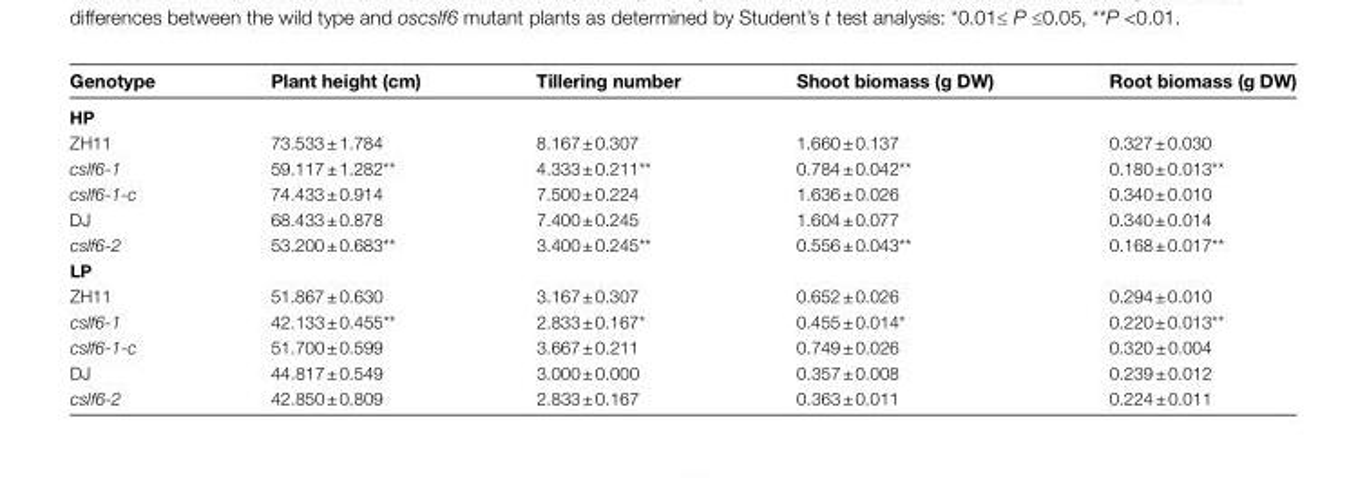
<table><thead><tr><td>Genotype</td><td>Plant height (cm)</td><td>Tillering number</td><td>Shoot biomass (g DW)</td><td>Root biomass (g DW)</td></tr></thead><tbody><tr><td colspan="5">HP</td></tr><tr><td>ZH11</td><td>73.533 ± 1.784</td><td>8.167 ± 0.307</td><td>1.660 ± 0.137</td><td>0.327 ± 0.030</td></tr><tr><td>cslf6-1</td><td>59.117 ± 1.282**</td><td>4.333 ± 0.211**</td><td>0.784 ± 0.042**</td><td>0.180 ± 0.013**</td></tr><tr><td>cslf6-1-c</td><td>74.433 ± 0.914</td><td>7.500 ± 0.224</td><td>1.636 ± 0.026</td><td>0.340 ± 0.010</td></tr><tr><td>DJ</td><td>68.433 ± 0.878</td><td>7.400 ± 0.245</td><td>1.604 ± 0.077</td><td>0.340 ± 0.014</td></tr><tr><td>cslf6-2</td><td>53.200 ± 0.683**</td><td>3.400 ± 0.245**</td><td>0.556 ± 0.043**</td><td>0.168 ± 0.017**</td></tr><tr><td colspan="5">LP</td></tr><tr><td>ZH11</td><td>51.867 ± 0.630</td><td>3.167 ± 0.307</td><td>0.652 ± 0.026</td><td>0.294 ± 0.010</td></tr><tr><td>cslf6-1</td><td>42.133 ± 0.455**</td><td>2.833 ± 0.167*</td><td>0.455 ± 0.014*</td><td>0.220 ± 0.013**</td></tr><tr><td>cslf6-1-c</td><td>51.700 ± 0.599</td><td>3.667 ± 0.211</td><td>0.749 ± 0.026</td><td>0.320 ± 0.004</td></tr><tr><td>DJ</td><td>44.817 ± 0.549</td><td>3.000 ± 0.000</td><td>0.357 ± 0.008</td><td>0.239 ± 0.012</td></tr><tr><td>cslf6-2</td><td>42.850 ± 0.809</td><td>2.833 ± 0.167</td><td>0.363 ± 0.011</td><td>0.224 ± 0.011</td></tr></tbody></table>